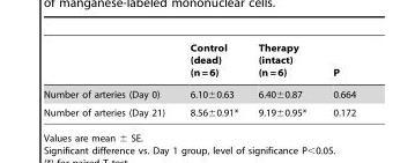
<table><thead><tr><td></td><td>Control (dead) (n = 6)</td><td>Therapy (intact) (n = 6)</td><td>P</td></tr></thead><tbody><tr><td>Number of arteries (Day 0)</td><td>6.10±0.63</td><td>6.40±0.87</td><td>0.664</td></tr><tr><td>Number of arteries (Day 21)</td><td>8.56±0.91*</td><td>9.19±0.95*</td><td>0.172</td></tr></tbody></table>